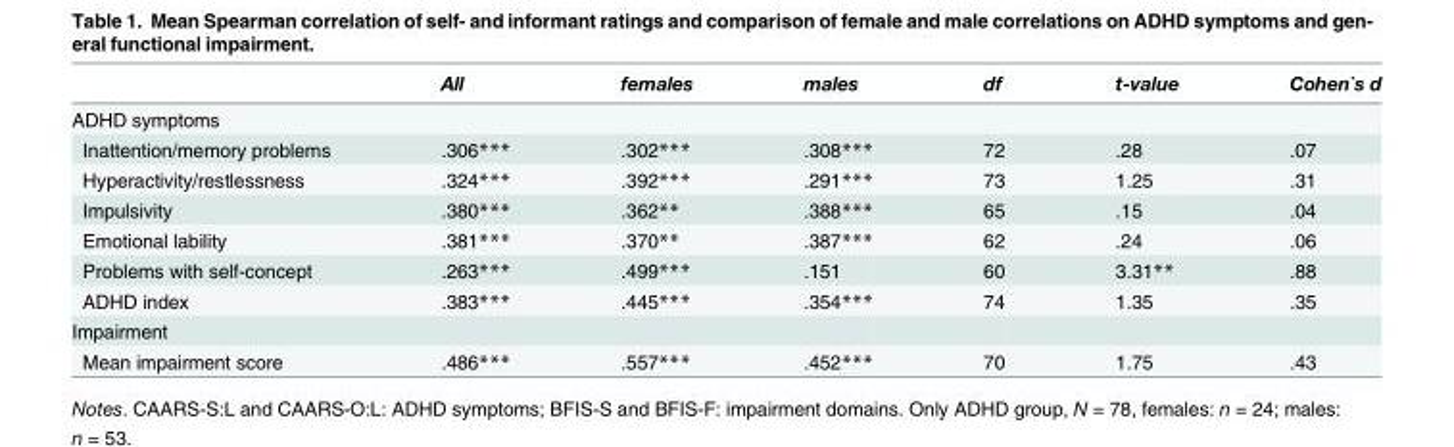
<table><thead><tr><td></td><td>All</td><td>females</td><td>males</td><td>df</td><td>t-value</td><td>Cohen`s d</td></tr></thead><tbody><tr><td colspan="7">ADHD symptoms</td></tr><tr><td>Inattention/memory problems</td><td>.306***</td><td>.302***</td><td>.308***</td><td>72</td><td>.28</td><td>.07</td></tr><tr><td>Hyperactivity/restlessness</td><td>.324***</td><td>.392***</td><td>.291***</td><td>73</td><td>1.25</td><td>.31</td></tr><tr><td>Impulsivity</td><td>.380***</td><td>.362**</td><td>.388***</td><td>65</td><td>.15</td><td>.04</td></tr><tr><td>Emotional lability</td><td>.381***</td><td>.370**</td><td>.387***</td><td>62</td><td>.24</td><td>.06</td></tr><tr><td>Problems with self-concept</td><td>.263***</td><td>.499***</td><td>.151</td><td>60</td><td>3.31**</td><td>.88</td></tr><tr><td>ADHD index</td><td>.383***</td><td>.445***</td><td>.354***</td><td>74</td><td>1.35</td><td>.35</td></tr><tr><td colspan="7">Impairment</td></tr><tr><td>Mean impairment score</td><td>.486***</td><td>.557***</td><td>.452***</td><td>70</td><td>1.75</td><td>.43</td></tr></tbody></table>